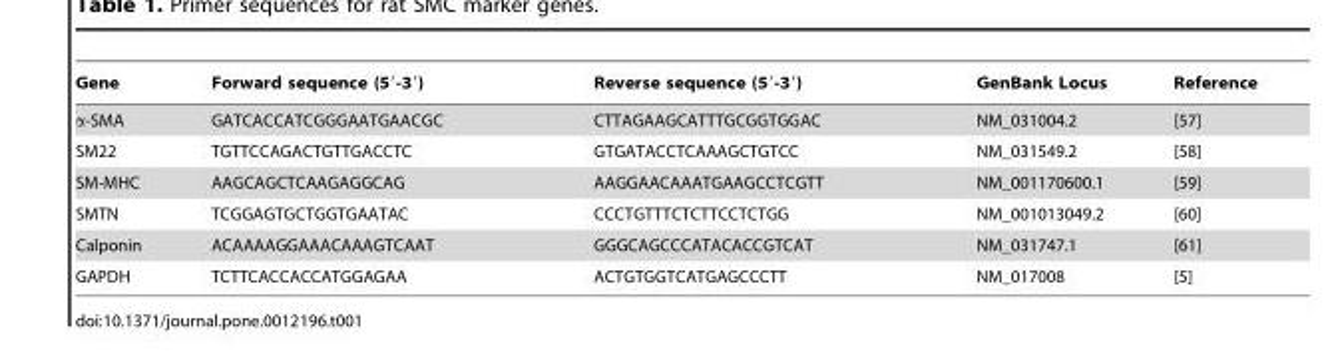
<table><thead><tr><td>Gene</td><td>Forward sequence (5′-3′)</td><td>Reverse sequence (5′-3′)</td><td>GenBank Locus</td><td>Reference</td></tr></thead><tbody><tr><td>α-SMA</td><td>GATCACCATCGGGAATGAACGC</td><td>CTTAGAAGCATTTGCGGTGGAC</td><td>NM_031004.2</td><td>[57]</td></tr><tr><td>SM22</td><td>TGTTCCAGACTGTTGACCTC</td><td>GTGATACCTCAAAGCTGTCC</td><td>NM_031549.2</td><td>[58]</td></tr><tr><td>SM-MHC</td><td>AAGCAGCTCAAGAGGCAG</td><td>AAGGAACAAATGAAGCCTCGTT</td><td>NM_001170600.1</td><td>[59]</td></tr><tr><td>SMTN</td><td>TCGGAGTGCTGGTGAATAC</td><td>CCCTGTTTCTCTTCCTCTGG</td><td>NM_001013049.2</td><td>[60]</td></tr><tr><td>Calponin</td><td>ACAAAAGGAAACAAAGTCAAT</td><td>GGGCAGCCCATACACCGTCAT</td><td>NM_031747.1</td><td>[61]</td></tr><tr><td>GAPDH</td><td>TCTTCACCACCATGGAGAA</td><td>ACTGTGGTCATGAGCCCTT</td><td>NM_017008</td><td>[5]</td></tr></tbody></table>